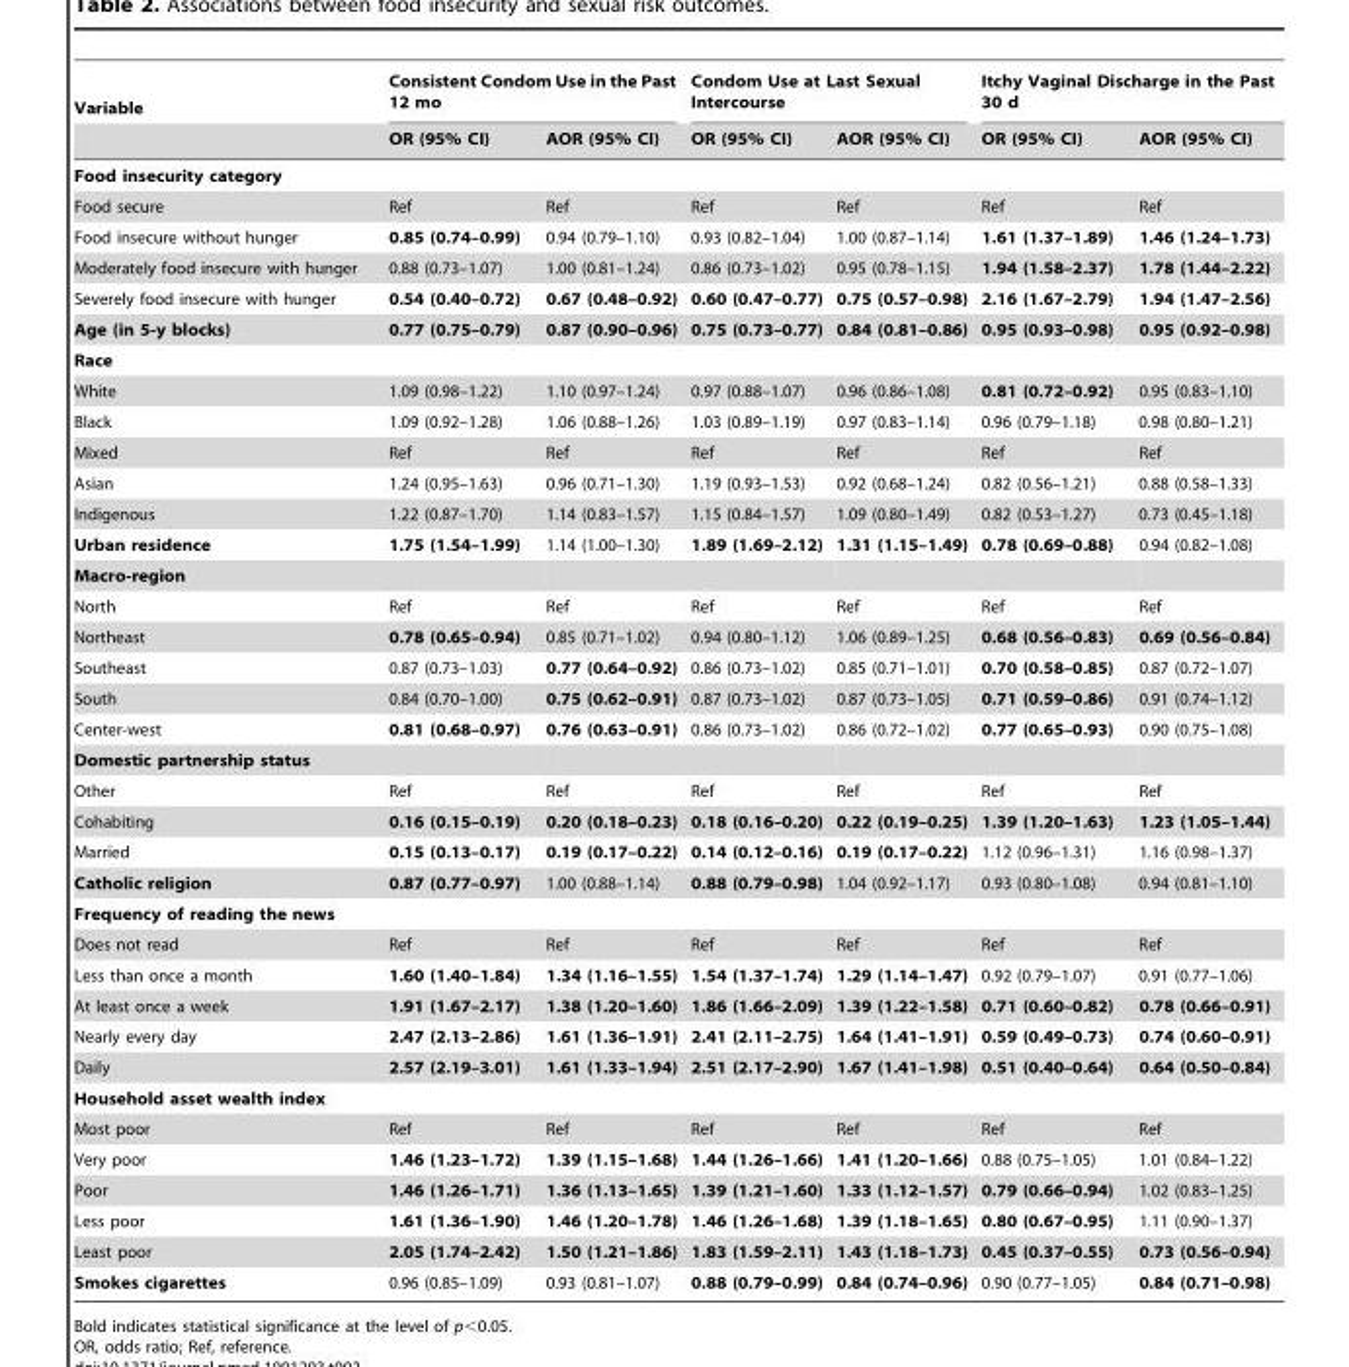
<table><thead><tr><td rowspan="2">Variable</td><td colspan="2">Consistent Condom Use in the Past 12 mo</td><td colspan="2">Condom Use at Last Sexual Intercourse</td><td colspan="2">Itchy Vaginal Discharge in the Past 30 d</td></tr><tr><td>OR (95% CI)</td><td>AOR (95% CI)</td><td>OR (95% CI)</td><td>AOR (95% CI)</td><td>OR (95% CI)</td><td>AOR (95% CI)</td></tr></thead><tbody><tr><td colspan="7">Food insecurity category</td></tr><tr><td>Food secure</td><td>Ref</td><td>Ref</td><td>Ref</td><td>Ref</td><td>Ref</td><td>Ref</td></tr><tr><td>Food insecure without hunger</td><td>0.85 (0.74–0.99)</td><td>0.94 (0.79–1.10)</td><td>0.93 (0.82–1.04)</td><td>1.00 (0.87–1.14)</td><td>1.61 (1.37–1.89)</td><td>1.46 (1.24–1.73)</td></tr><tr><td>Moderately food insecure with hunger</td><td>0.88 (0.73–1.07)</td><td>1.00 (0.81–1.24)</td><td>0.86 (0.73–1.02)</td><td>0.95 (0.78–1.15)</td><td>1.94 (1.58–2.37)</td><td>1.78 (1.44–2.22)</td></tr><tr><td>Severely food insecure with hunger</td><td>0.54 (0.40–0.72)</td><td>0.67 (0.48–0.92)</td><td>0.60 (0.47–0.77)</td><td>0.75 (0.57–0.98)</td><td>2.16 (1.67–2.79)</td><td>1.94 (1.47–2.56)</td></tr><tr><td>Age (in 5-y blocks)</td><td>0.77 (0.75–0.79)</td><td>0.87 (0.90–0.96)</td><td>0.75 (0.73–0.77)</td><td>0.84 (0.81–0.86)</td><td>0.95 (0.93–0.98)</td><td>0.95 (0.92–0.98)</td></tr><tr><td colspan="7">Race</td></tr><tr><td>White</td><td>1.09 (0.98–1.22)</td><td>1.10 (0.97–1.24)</td><td>0.97 (0.88–1.07)</td><td>0.96 (0.86–1.08)</td><td>0.81 (0.72–0.92)</td><td>0.95 (0.83–1.10)</td></tr><tr><td>Black</td><td>1.09 (0.92–1.28)</td><td>1.06 (0.88–1.26)</td><td>1.03 (0.89–1.19)</td><td>0.97 (0.83–1.14)</td><td>0.96 (0.79–1.18)</td><td>0.98 (0.80–1.21)</td></tr><tr><td>Mixed</td><td>Ref</td><td>Ref</td><td>Ref</td><td>Ref</td><td>Ref</td><td>Ref</td></tr><tr><td>Asian</td><td>1.24 (0.95–1.63)</td><td>0.96 (0.71–1.30)</td><td>1.19 (0.93–1.53)</td><td>0.92 (0.68–1.24)</td><td>0.82 (0.56–1.21)</td><td>0.88 (0.58–1.33)</td></tr><tr><td>Indigenous</td><td>1.22 (0.87–1.70)</td><td>1.14 (0.83–1.57)</td><td>1.15 (0.84–1.57)</td><td>1.09 (0.80–1.49)</td><td>0.82 (0.53–1.27)</td><td>0.73 (0.45–1.18)</td></tr><tr><td>Urban residence</td><td>1.75 (1.54–1.99)</td><td>1.14 (1.00–1.30)</td><td>1.89 (1.69–2.12)</td><td>1.31 (1.15–1.49)</td><td>0.78 (0.69–0.88)</td><td>0.94 (0.82–1.08)</td></tr><tr><td colspan="7">Macro-region</td></tr><tr><td>North</td><td>Ref</td><td>Ref</td><td>Ref</td><td>Ref</td><td>Ref</td><td>Ref</td></tr><tr><td>Northeast</td><td>0.78 (0.65–0.94)</td><td>0.85 (0.71–1.02)</td><td>0.94 (0.80–1.12)</td><td>1.06 (0.89–1.25)</td><td>0.68 (0.56–0.83)</td><td>0.69 (0.56–0.84)</td></tr><tr><td>Southeast</td><td>0.87 (0.73–1.03)</td><td>0.77 (0.64–0.92)</td><td>0.86 (0.73–1.02)</td><td>0.85 (0.71–1.01)</td><td>0.70 (0.58–0.85)</td><td>0.87 (0.72–1.07)</td></tr><tr><td>South</td><td>0.84 (0.70–1.00)</td><td>0.75 (0.62–0.91)</td><td>0.87 (0.73–1.02)</td><td>0.87 (0.73–1.05)</td><td>0.71 (0.59–0.86)</td><td>0.91 (0.74–1.12)</td></tr><tr><td>Center-west</td><td>0.81 (0.68–0.97)</td><td>0.76 (0.63–0.91)</td><td>0.86 (0.73–1.02)</td><td>0.86 (0.72–1.02)</td><td>0.77 (0.65–0.93)</td><td>0.90 (0.75–1.08)</td></tr><tr><td colspan="7">Domestic partnership status</td></tr><tr><td>Other</td><td>Ref</td><td>Ref</td><td>Ref</td><td>Ref</td><td>Ref</td><td>Ref</td></tr><tr><td>Cohabiting</td><td>0.16 (0.15–0.19)</td><td>0.20 (0.18–0.23)</td><td>0.18 (0.16–0.20)</td><td>0.22 (0.19–0.25)</td><td>1.39 (1.20–1.63)</td><td>1.23 (1.05–1.44)</td></tr><tr><td>Married</td><td>0.15 (0.13–0.17)</td><td>0.19 (0.17–0.22)</td><td>0.14 (0.12–0.16)</td><td>0.19 (0.17–0.22)</td><td>1.12 (0.96–1.31)</td><td>1.16 (0.98–1.37)</td></tr><tr><td>Catholic religion</td><td>0.87 (0.77–0.97)</td><td>1.00 (0.88–1.14)</td><td>0.88 (0.79–0.98)</td><td>1.04 (0.92–1.17)</td><td>0.93 (0.80–1.08)</td><td>0.94 (0.81–1.10)</td></tr><tr><td colspan="7">Frequency of reading the news</td></tr><tr><td>Does not read</td><td>Ref</td><td>Ref</td><td>Ref</td><td>Ref</td><td>Ref</td><td>Ref</td></tr><tr><td>Less than once a month</td><td>1.60 (1.40–1.84)</td><td>1.34 (1.16–1.55)</td><td>1.54 (1.37–1.74)</td><td>1.29 (1.14–1.47)</td><td>0.92 (0.79–1.07)</td><td>0.91 (0.77–1.06)</td></tr><tr><td>At least once a week</td><td>1.91 (1.67–2.17)</td><td>1.38 (1.20–1.60)</td><td>1.86 (1.66–2.09)</td><td>1.39 (1.22–1.58)</td><td>0.71 (0.60–0.82)</td><td>0.78 (0.66–0.91)</td></tr><tr><td>Nearly every day</td><td>2.47 (2.13–2.86)</td><td>1.61 (1.36–1.91)</td><td>2.41 (2.11–2.75)</td><td>1.64 (1.41–1.91)</td><td>0.59 (0.49–0.73)</td><td>0.74 (0.60–0.91)</td></tr><tr><td>Daily</td><td>2.57 (2.19–3.01)</td><td>1.61 (1.33–1.94)</td><td>2.51 (2.17–2.90)</td><td>1.67 (1.41–1.98)</td><td>0.51 (0.40–0.64)</td><td>0.64 (0.50–0.84)</td></tr><tr><td colspan="7">Household asset wealth index</td></tr><tr><td>Most poor</td><td>Ref</td><td>Ref</td><td>Ref</td><td>Ref</td><td>Ref</td><td>Ref</td></tr><tr><td>Very poor</td><td>1.46 (1.23–1.72)</td><td>1.39 (1.15–1.68)</td><td>1.44 (1.26–1.66)</td><td>1.41 (1.20–1.66)</td><td>0.88 (0.75–1.05)</td><td>1.01 (0.84–1.22)</td></tr><tr><td>Poor</td><td>1.46 (1.26–1.71)</td><td>1.36 (1.13–1.65)</td><td>1.39 (1.21–1.60)</td><td>1.33 (1.12–1.57)</td><td>0.79 (0.66–0.94)</td><td>1.02 (0.83–1.25)</td></tr><tr><td>Less poor</td><td>1.61 (1.36–1.90)</td><td>1.46 (1.20–1.78)</td><td>1.46 (1.26–1.68)</td><td>1.39 (1.18–1.65)</td><td>0.80 (0.67–0.95)</td><td>1.11 (0.90–1.37)</td></tr><tr><td>Least poor</td><td>2.05 (1.74–2.42)</td><td>1.50 (1.21–1.86)</td><td>1.83 (1.59–2.11)</td><td>1.43 (1.18–1.73)</td><td>0.45 (0.37–0.55)</td><td>0.73 (0.56–0.94)</td></tr><tr><td>Smokes cigarettes</td><td>0.96 (0.85–1.09)</td><td>0.93 (0.81–1.07)</td><td>0.88 (0.79–0.99)</td><td>0.84 (0.74–0.96)</td><td>0.90 (0.77–1.05)</td><td>0.84 (0.71–0.98)</td></tr></tbody></table>